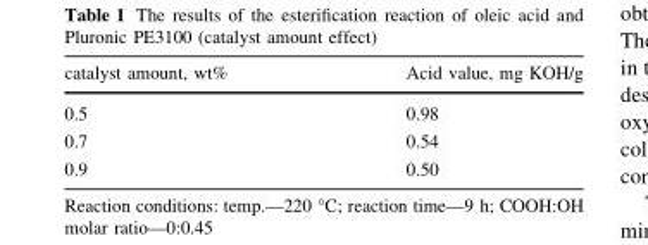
<table><thead><tr><td>catalyst amount, wt%</td><td>Acid value, mg KOH/g</td></tr></thead><tbody><tr><td>0.5</td><td>0.98</td></tr><tr><td>0.7</td><td>0.54</td></tr><tr><td>0.9</td><td>0.50</td></tr></tbody></table>